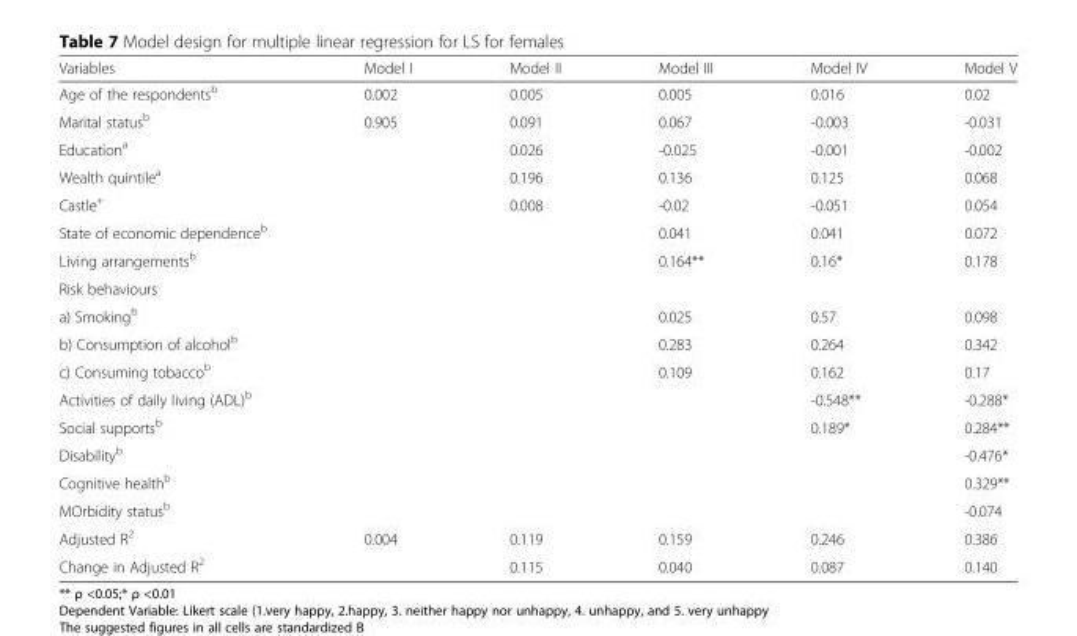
<table><thead><tr><td>Variables</td><td>Model I</td><td>Model II</td><td>Model III</td><td>Model IV</td><td>Model V</td></tr></thead><tbody><tr><td>Age of the respondents<sup>b</sup></td><td>0.002</td><td>0.005</td><td>0.005</td><td>0.016</td><td>0.02</td></tr><tr><td>Marital status<sup>b</sup></td><td>0.905</td><td>0.091</td><td>0.067</td><td>-0.003</td><td>-0.031</td></tr><tr><td>Education<sup>a</sup></td><td></td><td>0.026</td><td>-0.025</td><td>-0.001</td><td>-0.002</td></tr><tr><td>Wealth quintile<sup>a</sup></td><td></td><td>0.196</td><td>0.136</td><td>0.125</td><td>0.068</td></tr><tr><td>Castle<sup>+</sup></td><td></td><td>0.008</td><td>-0.02</td><td>-0.051</td><td>0.054</td></tr><tr><td>State of economic dependence<sup>b</sup></td><td></td><td></td><td>0.041</td><td>0.041</td><td>0.072</td></tr><tr><td>Living arrangements<sup>b</sup></td><td></td><td></td><td>0.164**</td><td>0.16*</td><td>0.178</td></tr><tr><td colspan="6">Risk behaviours</td></tr><tr><td>a) Smoking<sup>b</sup></td><td></td><td></td><td>0.025</td><td>0.57</td><td>0.098</td></tr><tr><td>b) Consumption of alcohol<sup>b</sup></td><td></td><td></td><td>0.283</td><td>0.264</td><td>0.342</td></tr><tr><td>c) Consuming tobacco<sup>b</sup></td><td></td><td></td><td>0.109</td><td>0.162</td><td>0.17</td></tr><tr><td>Activities of daily living (ADL)<sup>b</sup></td><td></td><td></td><td></td><td>-0.548**</td><td>-0.288*</td></tr><tr><td>Social supports<sup>b</sup></td><td></td><td></td><td></td><td>0.189*</td><td>0.284**</td></tr><tr><td>Disability<sup>b</sup></td><td></td><td></td><td></td><td></td><td>-0.476*</td></tr><tr><td>Cognitive health<sup>b</sup></td><td></td><td></td><td></td><td></td><td>0.329**</td></tr><tr><td>MOrbidity status<sup>b</sup></td><td></td><td></td><td></td><td></td><td>-0.074</td></tr><tr><td>Adjusted R<sup>2</sup></td><td>0.004</td><td>0.119</td><td>0.159</td><td>0.246</td><td>0.386</td></tr><tr><td>Change in Adjusted R<sup>2</sup></td><td></td><td>0.115</td><td>0.040</td><td>0.087</td><td>0.140</td></tr></tbody></table>